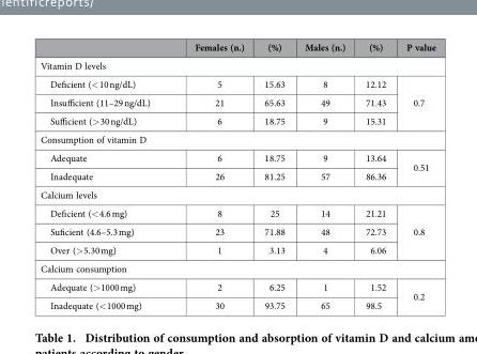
<table><thead><tr><td></td><td>Females (n.)</td><td>(%)</td><td>Males (n.)</td><td>(%)</td><td>P value</td></tr></thead><tbody><tr><td colspan="6">Vitamin D levels</td></tr><tr><td>Deficient (&lt; 10 ng/dL)</td><td>5</td><td>15.63</td><td>8</td><td>12.12</td><td rowspan="3">0.7</td></tr><tr><td>Insufficient (11–29 ng/dL)</td><td>21</td><td>65.63</td><td>49</td><td>71.43</td></tr><tr><td>Sufficient (&gt; 30 ng/dL)</td><td>6</td><td>18.75</td><td>9</td><td>15.31</td></tr><tr><td colspan="6">Consumption of vitamin D</td></tr><tr><td>Adequate</td><td>6</td><td>18.75</td><td>9</td><td>13.64</td><td rowspan="2">0.51</td></tr><tr><td>Inadequate</td><td>26</td><td>81.25</td><td>57</td><td>86.36</td></tr><tr><td colspan="6">Calcium levels</td></tr><tr><td>Deficient (&lt; 4.6 mg)</td><td>8</td><td>25</td><td>14</td><td>21.21</td><td rowspan="3">0.8</td></tr><tr><td>Suficient (4.6–5.3 mg)</td><td>23</td><td>71.88</td><td>48</td><td>72.73</td></tr><tr><td>Over (&gt; 5.30 mg)</td><td>1</td><td>3.13</td><td>4</td><td>6.06</td></tr><tr><td colspan="6">Calcium consumption</td></tr><tr><td>Adequate (&gt; 1000 mg)</td><td>2</td><td>6.25</td><td>1</td><td>1.52</td><td rowspan="2">0.2</td></tr><tr><td>Inadequate (&lt; 1000 mg)</td><td>30</td><td>93.75</td><td>65</td><td>98.5</td></tr></tbody></table>